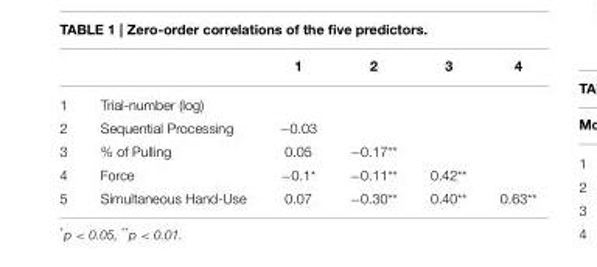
<table><thead><tr><td></td><td></td><td>1</td><td>2</td><td>3</td><td>4</td></tr></thead><tbody><tr><td>1</td><td>Trial-number (log)</td><td></td><td></td><td></td><td></td></tr><tr><td>2</td><td>Sequential Processing</td><td>−0.03</td><td></td><td></td><td></td></tr><tr><td>3</td><td>% of Pulling</td><td>0.05</td><td>−0.17**</td><td></td><td></td></tr><tr><td>4</td><td>Force</td><td>−0.1*</td><td>−0.11**</td><td>0.42**</td><td></td></tr><tr><td>5</td><td>Simultaneous Hand-Use</td><td>0.07</td><td>−0.30**</td><td>0.40**</td><td>0.63**</td></tr></tbody></table>